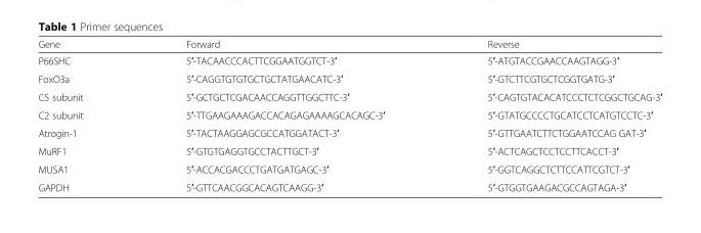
<table><thead><tr><td>Gene</td><td>Forward</td><td>Reverse</td></tr></thead><tbody><tr><td>P66SHC</td><td>5′-TACAACCCACTTCGGAATGGTCT-3′</td><td>5′-ATGTACCGAACCAAGTAGG-3′</td></tr><tr><td>FoxO3a</td><td>5′-CAGGTGTGTGCTGCTATGAACATC-3′</td><td>5′-GTCTTCGTGCTCGGTGATG-3′</td></tr><tr><td>C5 subunit</td><td>5′-GCTGCTCGACAACCAGGTTGGCTTC-3′</td><td>5′-CAGTGTACACATCCCTCTCGGCTGCAG-3′</td></tr><tr><td>C2 subunit</td><td>5′-TTGAAGAAAGACCACAGAGAAAAGCACAGC-3′</td><td>5′-GTATGCCCCTGCATCCTCATGTCCTC-3′</td></tr><tr><td>Atrogin-1</td><td>5′-TACTAAGGAGCGCCATGGATACT-3′</td><td>5′-GTTGAATCTTCTGGAATCCAG GAT-3′</td></tr><tr><td>MuRF1</td><td>5′-GTGTGAGGTGCCTACTTGCT-3′</td><td>5′-ACTCAGCTCCTCCTTCACCT-3′</td></tr><tr><td>MUSA1</td><td>5′-ACCACGACCCTGATGATGAGC-3′</td><td>5′-GGTCAGGCTCTTCCATTCGTCT-3′</td></tr><tr><td>GAPDH</td><td>5′-GTTCAACGGCACAGTCAAGG-3′</td><td>5′-GTGGTGAAGACGCCAGTAGA-3′</td></tr></tbody></table>